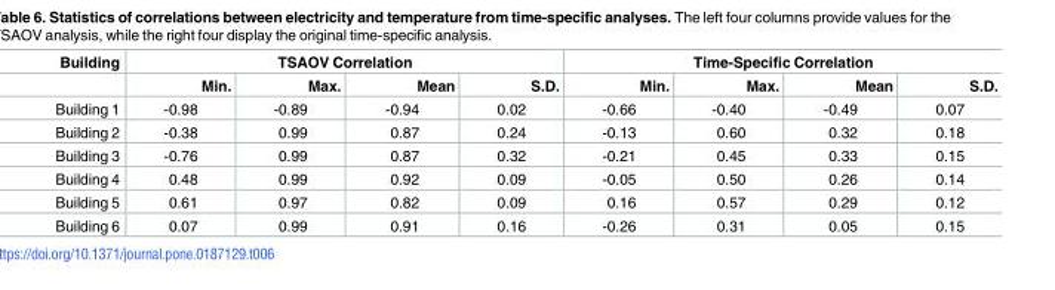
<table><thead><tr><td rowspan="2">Building</td><td colspan="4">TSAOV Correlation</td><td colspan="4">Time-Specific Correlation</td></tr><tr><td>Min.</td><td>Max.</td><td>Mean</td><td>S.D.</td><td>Min.</td><td>Max.</td><td>Mean</td><td>S.D.</td></tr></thead><tbody><tr><td>Building 1</td><td>-0.98</td><td>-0.89</td><td>-0.94</td><td>0.02</td><td>-0.66</td><td>-0.40</td><td>-0.49</td><td>0.07</td></tr><tr><td>Building 2</td><td>-0.38</td><td>0.99</td><td>0.87</td><td>0.24</td><td>-0.13</td><td>0.60</td><td>0.32</td><td>0.18</td></tr><tr><td>Building 3</td><td>-0.76</td><td>0.99</td><td>0.87</td><td>0.32</td><td>-0.21</td><td>0.45</td><td>0.33</td><td>0.15</td></tr><tr><td>Building 4</td><td>0.48</td><td>0.99</td><td>0.92</td><td>0.09</td><td>-0.05</td><td>0.50</td><td>0.26</td><td>0.14</td></tr><tr><td>Building 5</td><td>0.61</td><td>0.97</td><td>0.82</td><td>0.09</td><td>0.16</td><td>0.57</td><td>0.29</td><td>0.12</td></tr><tr><td>Building 6</td><td>0.07</td><td>0.99</td><td>0.91</td><td>0.16</td><td>-0.26</td><td>0.31</td><td>0.05</td><td>0.15</td></tr></tbody></table>